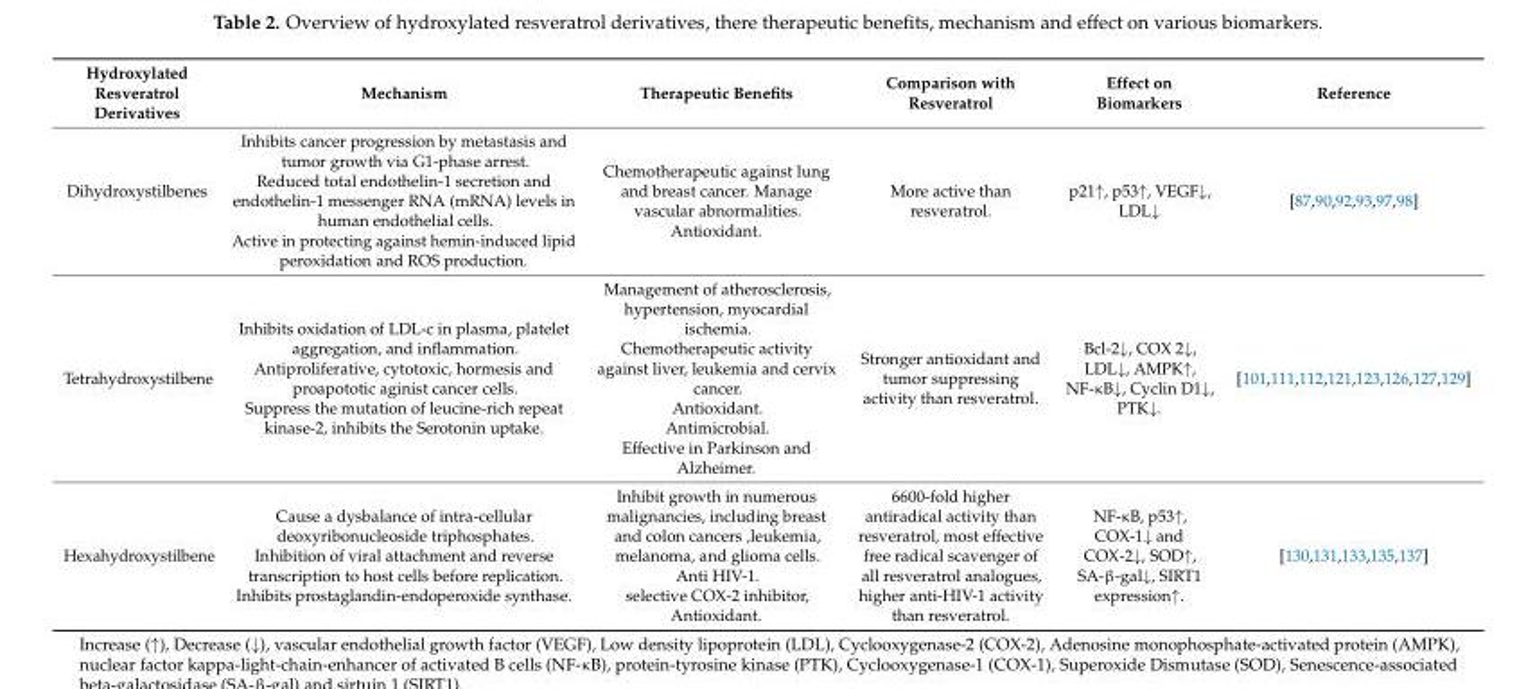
<table><thead><tr><td>Hydroxylated Resveratrol Derivatives</td><td>Mechanism</td><td>Therapeutic Benefits</td><td>Comparison with Resveratrol</td><td>Effect on Biomarkers</td><td>Reference</td></tr></thead><tbody><tr><td>Dihydroxystilbenes</td><td>Inhibits cancer progression by metastasis and tumor growth via G1-phase arrest. Reduced total endothelin-1 secretion and endothelin-1 messenger RNA (mRNA) levels in human endothelial cells. Active in protecting against hemin-induced lipid peroxidation and ROS production.</td><td>Chemotherapeutic against lung and breast cancer. Manage vascular abnormalities. Antioxidant.</td><td>More active than resveratrol.</td><td>p21↑, p53↑, VEGF↓, LDL↓</td><td>[87,90,92,93,97,98]</td></tr><tr><td>Tetrahydroxystilbene</td><td>Inhibits oxidation of LDL-c in plasma, platelet aggregation, and inflammation. Antiproliferative, cytotoxic, hormesis and proapototic aginist cancer cells. Suppress the mutation of leucine-rich repeat kinase-2, inhibits the Serotonin uptake.</td><td>Management of atherosclerosis, hypertension, myocardial ischemia. Chemotherapeutic activity against liver, leukemia and cervix cancer. Antioxidant. Antimicrobial. Effective in Parkinson and Alzheimer.</td><td>Stronger antioxidant and tumor suppressing activity than resveratrol.</td><td>Bcl-2↓, COX 2↓, LDL↓, AMPK↑, NF-κB↓, Cyclin D1↓, PTK↓.</td><td>[101,111,112,121,123,126,127,129]</td></tr><tr><td>Hexahydroxystilbene</td><td>Cause a dysbalance of intra-cellular deoxyribonucleoside triphosphates. Inhibition of viral attachment and reverse transcription to host cells before replication. Inhibits prostaglandin-endoperoxide synthase.</td><td>Inhibit growth in numerous malignancies, including breast and colon cancers ,leukemia, melanoma, and glioma cells. Anti HIV-1. selective COX-2 inhibitor, Antioxidant.</td><td>6600-fold higher antiradical activity than resveratrol, most effective free radical scavenger of all resveratrol analogues, higher anti-HIV-1 activity than resveratrol.</td><td>NF-κB, p53↑, COX-1↓ and COX-2↓, SOD↑, SA-β-gal↓, SIRT1 expression↑.</td><td>[130,131,133,135,137]</td></tr></tbody></table>